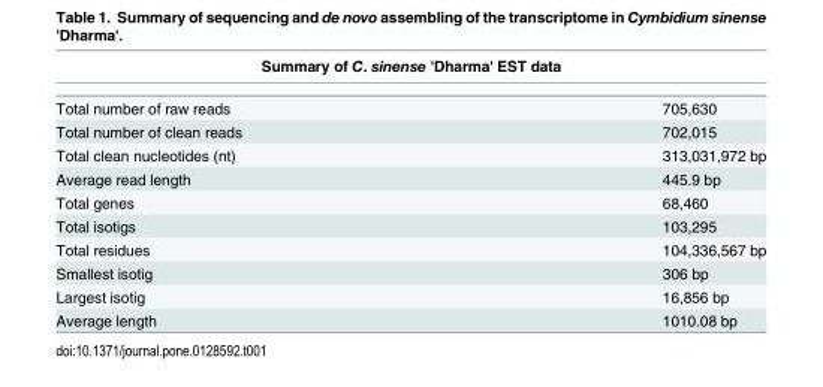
<table><thead><tr><td colspan="2">Summary of C. sinense &#x27;Dharma&#x27; EST data</td></tr><tr><td>Total number of raw reads</td><td>705,630</td></tr></thead><tbody><tr><td>Total number of clean reads</td><td>702,015</td></tr><tr><td>Total clean nucleotides (nt)</td><td>313,031,972 bp</td></tr><tr><td>Average read length</td><td>445.9 bp</td></tr><tr><td>Total genes</td><td>68,460</td></tr><tr><td>Total isotigs</td><td>103,295</td></tr><tr><td>Total residues</td><td>104,336,567 bp</td></tr><tr><td>Smallest isotig</td><td>306 bp</td></tr><tr><td>Largest isotig</td><td>16,856 bp</td></tr><tr><td>Average length</td><td>1010.08 bp</td></tr></tbody></table>